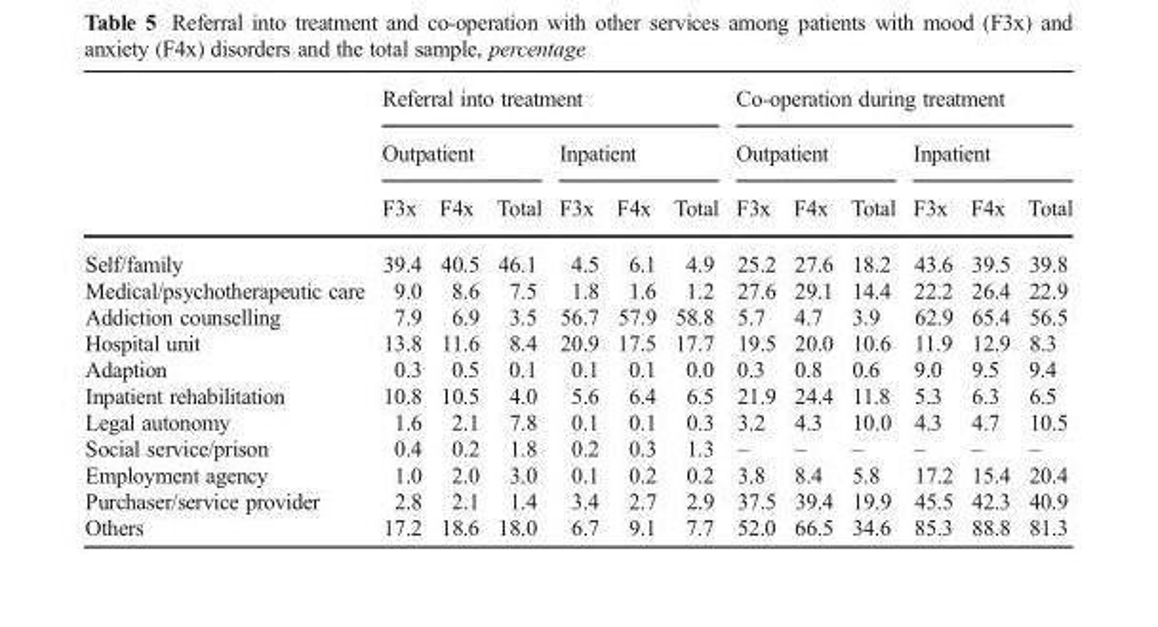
<table><thead><tr><td rowspan="3"></td><td colspan="6">Referral into treatment</td><td colspan="6">Co-operation during treatment</td></tr><tr><td colspan="3">Outpatient</td><td colspan="3">Inpatient</td><td colspan="3">Outpatient</td><td colspan="3">Inpatient</td></tr><tr><td>F3x</td><td>F4x</td><td>Total</td><td>F3x</td><td>F4x</td><td>Total</td><td>F3x</td><td>F4x</td><td>Total</td><td>F3x</td><td>F4x</td><td>Total</td></tr></thead><tbody><tr><td>Self/family</td><td>39.4</td><td>40.5</td><td>46.1</td><td>4.5</td><td>6.1</td><td>4.9</td><td>25.2</td><td>27.6</td><td>18.2</td><td>43.6</td><td>39.5</td><td>39.8</td></tr><tr><td>Medical/psychotherapeutic care</td><td>9.0</td><td>8.6</td><td>7.5</td><td>1.8</td><td>1.6</td><td>1.2</td><td>27.6</td><td>29.1</td><td>14.4</td><td>22.2</td><td>26.4</td><td>22.9</td></tr><tr><td>Addiction counselling</td><td>7.9</td><td>6.9</td><td>3.5</td><td>56.7</td><td>57.9</td><td>58.8</td><td>5.7</td><td>4.7</td><td>3.9</td><td>62.9</td><td>65.4</td><td>56.5</td></tr><tr><td>Hospital unit</td><td>13.8</td><td>11.6</td><td>8.4</td><td>20.9</td><td>17.5</td><td>17.7</td><td>19.5</td><td>20.0</td><td>10.6</td><td>11.9</td><td>12.9</td><td>8.3</td></tr><tr><td>Adaption</td><td>0.3</td><td>0.5</td><td>0.1</td><td>0.1</td><td>0.1</td><td>0.0</td><td>0.3</td><td>0.8</td><td>0.6</td><td>9.0</td><td>9.5</td><td>9.4</td></tr><tr><td>Inpatient rehabilitation</td><td>10.8</td><td>10.5</td><td>4.0</td><td>5.6</td><td>6.4</td><td>6.5</td><td>21.9</td><td>24.4</td><td>11.8</td><td>5.3</td><td>6.3</td><td>6.5</td></tr><tr><td>Legal autonomy</td><td>1.6</td><td>2.1</td><td>7.8</td><td>0.1</td><td>0.1</td><td>0.3</td><td>3.2</td><td>4.3</td><td>10.0</td><td>4.3</td><td>4.7</td><td>10.5</td></tr><tr><td>Social service/prison</td><td>0.4</td><td>0.2</td><td>1.8</td><td>0.2</td><td>0.3</td><td>1.3</td><td>–</td><td>–</td><td>–</td><td>–</td><td>–</td><td>–</td></tr><tr><td>Employment agency</td><td>1.0</td><td>2.0</td><td>3.0</td><td>0.1</td><td>0.2</td><td>0.2</td><td>3.8</td><td>8.4</td><td>5.8</td><td>17.2</td><td>15.4</td><td>20.4</td></tr><tr><td>Purchaser/service provider</td><td>2.8</td><td>2.1</td><td>1.4</td><td>3.4</td><td>2.7</td><td>2.9</td><td>37.5</td><td>39.4</td><td>19.9</td><td>45.5</td><td>42.3</td><td>40.9</td></tr><tr><td>Others</td><td>17.2</td><td>18.6</td><td>18.0</td><td>6.7</td><td>9.1</td><td>7.7</td><td>52.0</td><td>66.5</td><td>34.6</td><td>85.3</td><td>88.8</td><td>81.3</td></tr></tbody></table>